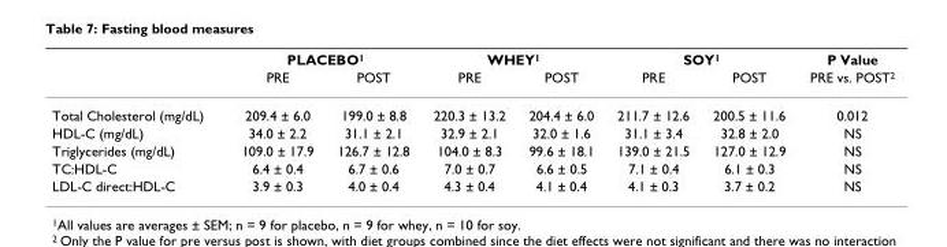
<table><thead><tr><td rowspan="2"></td><td colspan="2">PLACEBO<sup>1</sup></td><td colspan="2">WHEY<sup>1</sup></td><td colspan="2">SOY<sup>1</sup></td><td rowspan="2">P Value PRE vs. POST<sup>2</sup></td></tr><tr><td>PRE</td><td>POST</td><td>PRE</td><td>POST</td><td>PRE</td><td>POST</td></tr></thead><tbody><tr><td>Total Cholesterol (mg/dL)</td><td>209.4 ± 6.0</td><td>199.0 ± 8.8</td><td>220.3 ± 13.2</td><td>204.4 ± 6.0</td><td>211.7 ± 12.6</td><td>200.5 ± 11.6</td><td>0.012</td></tr><tr><td>HDL-C (mg/dL)</td><td>34.0 ± 2.2</td><td>31.1 ± 2.1</td><td>32.9 ± 2.1</td><td>32.0 ± 1.6</td><td>31.1 ± 3.4</td><td>32.8 ± 2.0</td><td>NS</td></tr><tr><td>Triglycerides (mg/dL)</td><td>109.0 ± 17.9</td><td>126.7 ± 12.8</td><td>104.0 ± 8.3</td><td>99.6 ± 18.1</td><td>139.0 ± 21.5</td><td>127.0 ± 12.9</td><td>NS</td></tr><tr><td>TC:HDL-C</td><td>6.4 ± 0.4</td><td>6.7 ± 0.6</td><td>7.0 ± 0.7</td><td>6.6 ± 0.5</td><td>7.1 ± 0.4</td><td>6.1 ± 0.3</td><td>NS</td></tr><tr><td>LDL-C direct:HDL-C</td><td>3.9 ± 0.3</td><td>4.0 ± 0.4</td><td>4.3 ± 0.4</td><td>4.1 ± 0.4</td><td>4.1 ± 0.3</td><td>3.7 ± 0.2</td><td>NS</td></tr></tbody></table>